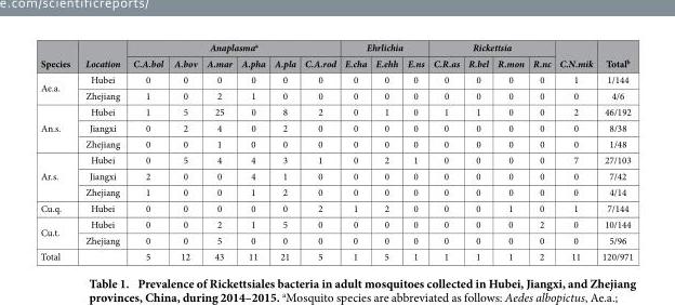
<table><thead><tr><td rowspan="2">Species</td><td rowspan="2">Location</td><td colspan="6">Anaplasma<sup>a</sup></td><td colspan="3">Ehrlichia</td><td colspan="4">Rickettsia</td><td rowspan="2">C.N.mik</td><td rowspan="2">Total<sup>b</sup></td></tr><tr><td>C.A.bol</td><td>A.bov</td><td>A.mar</td><td>A.pha</td><td>A.pla</td><td>C.A.rod</td><td>E.cha</td><td>E.ehh</td><td>E.ns</td><td>C.R.as</td><td>R.bel</td><td>R.mon</td><td>R.nc</td></tr></thead><tbody><tr><td rowspan="2">Ae.a.</td><td>Hubei</td><td>0</td><td>0</td><td>0</td><td>0</td><td>0</td><td>0</td><td>0</td><td>0</td><td>0</td><td>0</td><td>0</td><td>0</td><td>0</td><td>1</td><td>1/144</td></tr><tr><td>Zhejiang</td><td>1</td><td>0</td><td>2</td><td>1</td><td>0</td><td>0</td><td>0</td><td>0</td><td>0</td><td>0</td><td>0</td><td>0</td><td>0</td><td>0</td><td>4/6</td></tr><tr><td rowspan="3">An.s.</td><td>Hubei</td><td>1</td><td>5</td><td>25</td><td>0</td><td>8</td><td>2</td><td>0</td><td>1</td><td>0</td><td>1</td><td>1</td><td>0</td><td>0</td><td>2</td><td>46/192</td></tr><tr><td>Jiangxi</td><td>0</td><td>2</td><td>4</td><td>0</td><td>2</td><td>0</td><td>0</td><td>0</td><td>0</td><td>0</td><td>0</td><td>0</td><td>0</td><td>0</td><td>8/38</td></tr><tr><td>Zhejiang</td><td>0</td><td>0</td><td>1</td><td>0</td><td>0</td><td>0</td><td>0</td><td>0</td><td>0</td><td>0</td><td>0</td><td>0</td><td>0</td><td>0</td><td>1/48</td></tr><tr><td rowspan="3">Ar.s.</td><td>Hubei</td><td>0</td><td>5</td><td>4</td><td>4</td><td>3</td><td>1</td><td>0</td><td>2</td><td>1</td><td>0</td><td>0</td><td>0</td><td>0</td><td>7</td><td>27/103</td></tr><tr><td>Jiangxi</td><td>2</td><td>0</td><td>0</td><td>4</td><td>1</td><td>0</td><td>0</td><td>0</td><td>0</td><td>0</td><td>0</td><td>0</td><td>0</td><td>0</td><td>7/42</td></tr><tr><td>Zhejiang</td><td>1</td><td>0</td><td>0</td><td>1</td><td>2</td><td>0</td><td>0</td><td>0</td><td>0</td><td>0</td><td>0</td><td>0</td><td>0</td><td>0</td><td>4/14</td></tr><tr><td>Cu.q.</td><td>Hubei</td><td>0</td><td>0</td><td>0</td><td>0</td><td>0</td><td>2</td><td>1</td><td>2</td><td>0</td><td>0</td><td>0</td><td>1</td><td>0</td><td>1</td><td>7/144</td></tr><tr><td rowspan="2">Cu.t.</td><td>Hubei</td><td>0</td><td>0</td><td>2</td><td>1</td><td>5</td><td>0</td><td>0</td><td>0</td><td>0</td><td>0</td><td>0</td><td>0</td><td>2</td><td>0</td><td>10/144</td></tr><tr><td>Zhejiang</td><td>0</td><td>0</td><td>5</td><td>0</td><td>0</td><td>0</td><td>0</td><td>0</td><td>0</td><td>0</td><td>0</td><td>0</td><td>0</td><td>0</td><td>5/96</td></tr><tr><td>Total</td><td></td><td>5</td><td>12</td><td>43</td><td>11</td><td>21</td><td>5</td><td>1</td><td>5</td><td>1</td><td>1</td><td>1</td><td>1</td><td>2</td><td>11</td><td>120/971</td></tr></tbody></table>